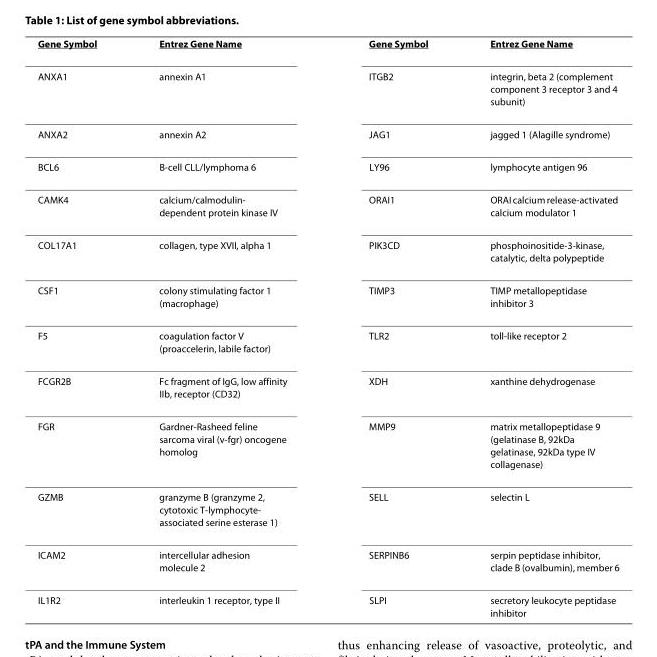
<table><tbody><tr><td>Gene Symbol</td><td>Entrez Gene Name</td><td>Gene Symbol</td><td>Entrez Gene Name</td></tr><tr><td>ANXA1</td><td>annexin A1</td><td>ITGB2</td><td>integrin, beta 2 (complement component 3 receptor 3 and 4 subunit)</td></tr><tr><td>ANXA2</td><td>annexin A2</td><td>JAG1</td><td>jagged 1 (Alagille syndrome)</td></tr><tr><td>BCL6</td><td>B-cell CLL/lymphoma 6</td><td>LY96</td><td>lymphocyte antigen 96</td></tr><tr><td>CAMK4</td><td>calcium/calmodulin- dependent protein kinase IV</td><td>ORAI1</td><td>ORAI calcium release-activated calcium modulator 1</td></tr><tr><td>COL17A1</td><td>collagen, type XVII, alpha 1</td><td>PIK3CD</td><td>phosphoinositide-3-kinase, catalytic, delta polypeptide</td></tr><tr><td>CSF1</td><td>colony stimulating factor 1 (macrophage)</td><td>TIMP3</td><td>TIMP metallopeptidase inhibitor 3</td></tr><tr><td>F5</td><td>coagulation factor V (proaccelerin, labile factor)</td><td>TLR2</td><td>toll-like receptor 2</td></tr><tr><td>FCGR2B</td><td>Fc fragment of IgG, low affinity IIb, receptor (CD32)</td><td>XDH</td><td>xanthine dehydrogenase</td></tr><tr><td>FGR</td><td>Gardner-Rasheed feline sarcoma viral (v-fgr) oncogene homolog</td><td>MMP9</td><td>matrix metallopeptidase 9 (gelatinase B, 92kDa gelatinase, 92kDa type IV collagenase)</td></tr><tr><td>GZMB</td><td>granzyme B (granzyme 2, cytotoxic T-lymphocyte- associated serine esterase 1)</td><td>SELL</td><td>selectin L</td></tr><tr><td>ICAM2</td><td>intercellular adhesion molecule 2</td><td>SERPINB6</td><td>serpin peptidase inhibitor, clade B (ovalbumin), member 6</td></tr><tr><td>IL1R2</td><td>interleukin 1 receptor, type II</td><td>SLPI</td><td>secretory leukocyte peptidase inhibitor</td></tr></tbody></table>